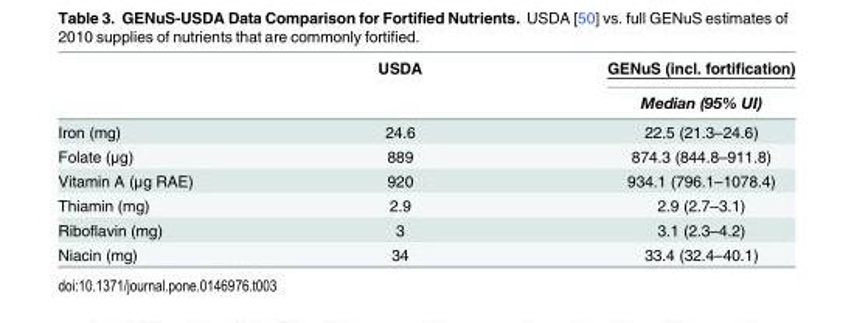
<table><thead><tr><td rowspan="2"></td><td rowspan="2">USDA</td><td rowspan="2">GENuS (incl. fortification) Median (95% UI)</td></tr><tr></tr></thead><tbody><tr><td>Iron (mg)</td><td>24.6</td><td>22.5 (21.3–24.6)</td></tr><tr><td>Folate (μg)</td><td>889</td><td>874.3 (844.8–911.8)</td></tr><tr><td>Vitamin A (μg RAE)</td><td>920</td><td>934.1 (796.1–1078.4)</td></tr><tr><td>Thiamin (mg)</td><td>2.9</td><td>2.9 (2.7–3.1)</td></tr><tr><td>Riboflavin (mg)</td><td>3</td><td>3.1 (2.3–4.2)</td></tr><tr><td>Niacin (mg)</td><td>34</td><td>33.4 (32.4–40.1)</td></tr></tbody></table>